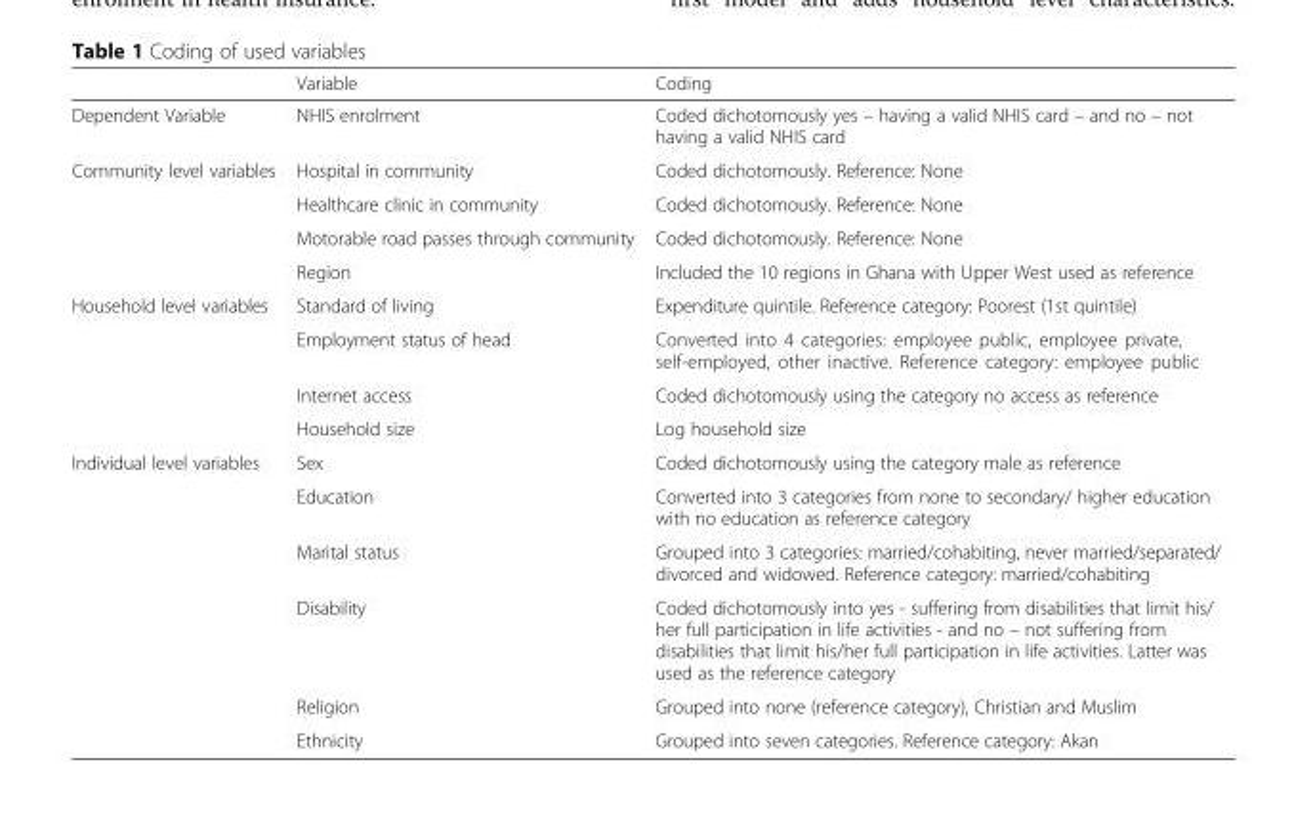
<table><thead><tr><td></td><td>Variable</td><td>Coding</td></tr></thead><tbody><tr><td>Dependent Variable</td><td>NHIS enrolment</td><td>Coded dichotomously yes – having a valid NHIS card – and no – not having a valid NHIS card</td></tr><tr><td rowspan="4">Community level variables</td><td>Hospital in community</td><td>Coded dichotomously. Reference: None</td></tr><tr><td>Healthcare clinic in community</td><td>Coded dichotomously. Reference: None</td></tr><tr><td>Motorable road passes through community</td><td>Coded dichotomously. Reference: None</td></tr><tr><td>Region</td><td>Included the 10 regions in Ghana with Upper West used as reference</td></tr><tr><td rowspan="4">Household level variables</td><td>Standard of living</td><td>Expenditure quintile. Reference category: Poorest (1st quintile)</td></tr><tr><td>Employment status of head</td><td>Converted into 4 categories: employee public, employee private, self-employed, other inactive. Reference category: employee public</td></tr><tr><td>Internet access</td><td>Coded dichotomously using the category no access as reference</td></tr><tr><td>Household size</td><td>Log household size</td></tr><tr><td rowspan="6">Individual level variables</td><td>Sex</td><td>Coded dichotomously using the category male as reference</td></tr><tr><td>Education</td><td>Converted into 3 categories from none to secondary/ higher education with no education as reference category</td></tr><tr><td>Marital status</td><td>Grouped into 3 categories: married/cohabiting, never married/separated/ divorced and widowed. Reference category: married/cohabiting</td></tr><tr><td>Disability</td><td>Coded dichotomously into yes - suffering from disabilities that limit his/ her full participation in life activities - and no – not suffering from disabilities that limit his/her full participation in life activities. Latter was used as the reference category</td></tr><tr><td>Religion</td><td>Grouped into none (reference category), Christian and Muslim</td></tr><tr><td>Ethnicity</td><td>Grouped into seven categories. Reference category: Akan</td></tr></tbody></table>